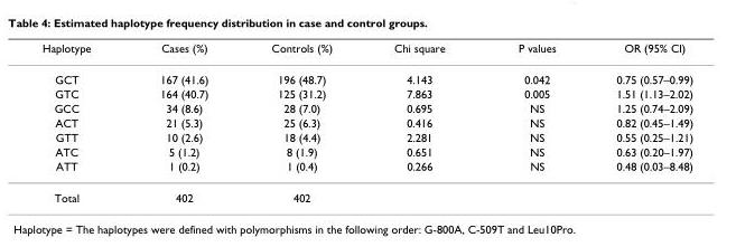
<table><thead><tr><td>Haplotype</td><td>Cases (%)</td><td>Controls (%)</td><td>Chi square</td><td>P values</td><td>OR (95% CI)</td></tr></thead><tbody><tr><td>GCT</td><td>167 (41.6)</td><td>196 (48.7)</td><td>4.143</td><td>0.042</td><td>0.75 (0.57–0.99)</td></tr><tr><td>GTC</td><td>164 (40.7)</td><td>125 (31.2)</td><td>7.863</td><td>0.005</td><td>1.51 (1.13–2.02)</td></tr><tr><td>GCC</td><td>34 (8.6)</td><td>28 (7.0)</td><td>0.695</td><td>NS</td><td>1.25 (0.74–2.09)</td></tr><tr><td>ACT</td><td>21 (5.3)</td><td>25 (6.3)</td><td>0.416</td><td>NS</td><td>0.82 (0.45–1.49)</td></tr><tr><td>GTT</td><td>10 (2.6)</td><td>18 (4.4)</td><td>2.281</td><td>NS</td><td>0.55 (0.25–1.21)</td></tr><tr><td>ATC</td><td>5 (1.2)</td><td>8 (1.9)</td><td>0.651</td><td>NS</td><td>0.63 (0.20–1.97)</td></tr><tr><td>ATT</td><td>1 (0.2)</td><td>1 (0.4)</td><td>0.266</td><td>NS</td><td>0.48 (0.03–8.48)</td></tr><tr><td>Total</td><td>402</td><td>402</td><td></td><td></td><td></td></tr></tbody></table>